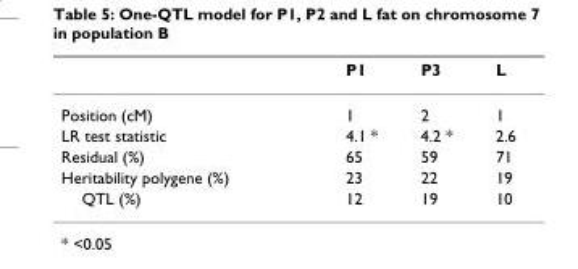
<table><thead><tr><td></td><td>P1</td><td>P3</td><td>L</td></tr></thead><tbody><tr><td>Position (cM)</td><td>1</td><td>2</td><td>1</td></tr><tr><td>LR test statistic</td><td>4.1 *</td><td>4.2 *</td><td>2.6</td></tr><tr><td>Residual (%)</td><td>65</td><td>59</td><td>71</td></tr><tr><td>Heritability polygene (%)</td><td>23</td><td>22</td><td>19</td></tr><tr><td>QTL (%)</td><td>12</td><td>19</td><td>10</td></tr></tbody></table>